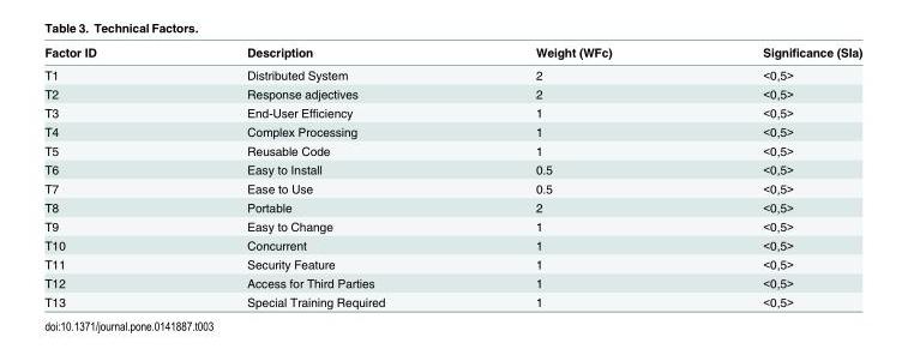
<table><thead><tr><td>Factor ID</td><td>Description</td><td>Weight (WFc)</td><td>Significance (SIa)</td></tr></thead><tbody><tr><td>T1</td><td>Distributed System</td><td>2</td><td>&lt;0,5&gt;</td></tr><tr><td>T2</td><td>Response adjectives</td><td>2</td><td>&lt;0,5&gt;</td></tr><tr><td>T3</td><td>End-User Efficiency</td><td>1</td><td>&lt;0,5&gt;</td></tr><tr><td>T4</td><td>Complex Processing</td><td>1</td><td>&lt;0,5&gt;</td></tr><tr><td>T5</td><td>Reusable Code</td><td>1</td><td>&lt;0,5&gt;</td></tr><tr><td>T6</td><td>Easy to Install</td><td>0.5</td><td>&lt;0,5&gt;</td></tr><tr><td>T7</td><td>Ease to Use</td><td>0.5</td><td>&lt;0,5&gt;</td></tr><tr><td>T8</td><td>Portable</td><td>2</td><td>&lt;0,5&gt;</td></tr><tr><td>T9</td><td>Easy to Change</td><td>1</td><td>&lt;0,5&gt;</td></tr><tr><td>T10</td><td>Concurrent</td><td>1</td><td>&lt;0,5&gt;</td></tr><tr><td>T11</td><td>Security Feature</td><td>1</td><td>&lt;0,5&gt;</td></tr><tr><td>T12</td><td>Access for Third Parties</td><td>1</td><td>&lt;0,5&gt;</td></tr><tr><td>T13</td><td>Special Training Required</td><td>1</td><td>&lt;0,5&gt;</td></tr></tbody></table>